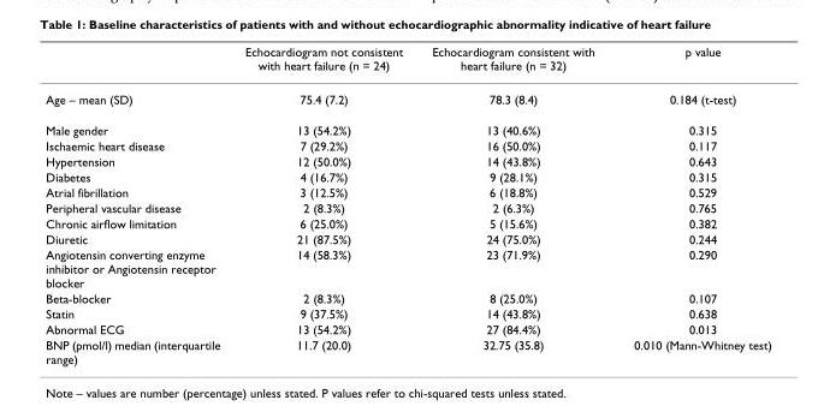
<table><thead><tr><td></td><td>Echocardiogram not consistent with heart failure (n = 24)</td><td>Echocardiogram consistent with heart failure (n = 32)</td><td>p value</td></tr></thead><tbody><tr><td>Age – mean (SD)</td><td>75.4 (7.2)</td><td>78.3 (8.4)</td><td>0.184 (t-test)</td></tr><tr><td>Male gender</td><td>13 (54.2%)</td><td>13 (40.6%)</td><td>0.315</td></tr><tr><td>Ischaemic heart disease</td><td>7 (29.2%)</td><td>16 (50.0%)</td><td>0.117</td></tr><tr><td>Hypertension</td><td>12 (50.0%)</td><td>14 (43.8%)</td><td>0.643</td></tr><tr><td>Diabetes</td><td>4 (16.7%)</td><td>9 (28.1%)</td><td>0.315</td></tr><tr><td>Atrial fibrillation</td><td>3 (12.5%)</td><td>6 (18.8%)</td><td>0.529</td></tr><tr><td>Peripheral vascular disease</td><td>2 (8.3%)</td><td>2 (6.3%)</td><td>0.765</td></tr><tr><td>Chronic airflow limitation</td><td>6 (25.0%)</td><td>5 (15.6%)</td><td>0.382</td></tr><tr><td>Diuretic</td><td>21 (87.5%)</td><td>24 (75.0%)</td><td>0.244</td></tr><tr><td>Angiotensin converting enzyme inhibitor or Angiotensin receptor blocker</td><td>14 (58.3%)</td><td>23 (71.9%)</td><td>0.290</td></tr><tr><td>Beta-blocker</td><td>2 (8.3%)</td><td>8 (25.0%)</td><td>0.107</td></tr><tr><td>Statin</td><td>9 (37.5%)</td><td>14 (43.8%)</td><td>0.638</td></tr><tr><td>Abnormal ECG</td><td>13 (54.2%)</td><td>27 (84.4%)</td><td>0.013</td></tr><tr><td>BNP (pmol/l) median (interquartile range)</td><td>11.7 (20.0)</td><td>32.75 (35.8)</td><td>0.010 (Mann-Whitney test)</td></tr></tbody></table>